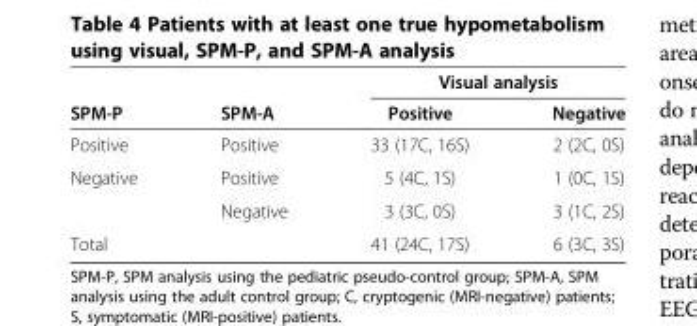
<table><thead><tr><td rowspan="2">SPM-P</td><td rowspan="2">SPM-A</td><td colspan="2">Visual analysis</td></tr><tr><td>Positive</td><td>Negative</td></tr></thead><tbody><tr><td>Positive</td><td>Positive</td><td>33 (17C, 16S)</td><td>2 (2C, 0S)</td></tr><tr><td rowspan="2">Negative</td><td>Positive</td><td>5 (4C, 1S)</td><td>1 (0C, 1S)</td></tr><tr><td>Negative</td><td>3 (3C, 0S)</td><td>3 (1C, 2S)</td></tr><tr><td>Total</td><td></td><td>41 (24C, 17S)</td><td>6 (3C, 3S)</td></tr></tbody></table>